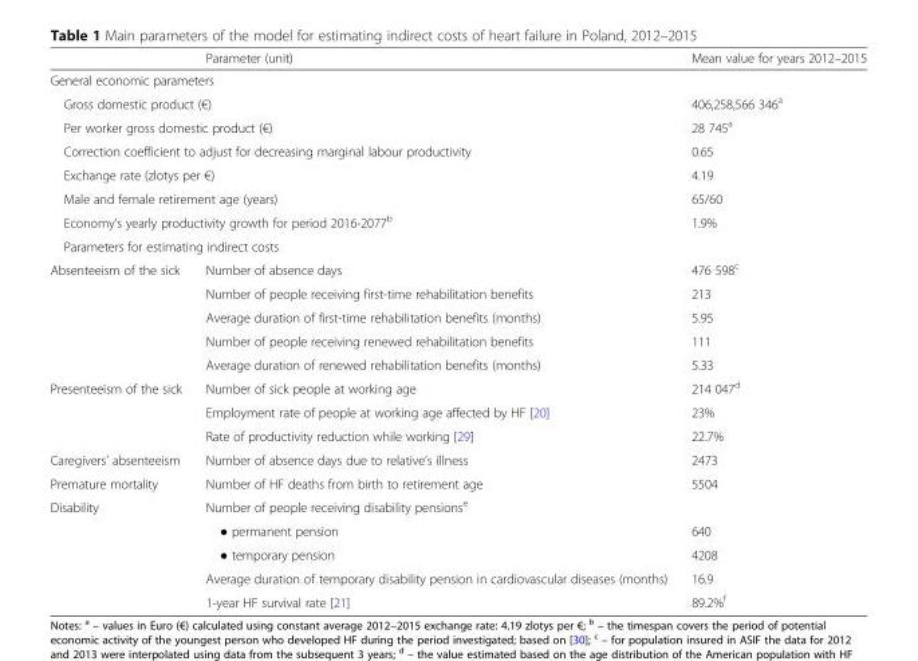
<table><thead><tr><td></td><td>Parameter (unit)</td><td>Mean value for years 2012–2015</td></tr></thead><tbody><tr><td colspan="3">General economic parameters</td></tr><tr><td colspan="2">Gross domestic product (€)</td><td>406,258,566 346<sup>a</sup></td></tr><tr><td colspan="2">Per worker gross domestic product (€)</td><td>28 745<sup>a</sup></td></tr><tr><td colspan="2">Correction coefficient to adjust for decreasing marginal labour productivity</td><td>0.65</td></tr><tr><td colspan="2">Exchange rate (zlotys per €)</td><td>4.19</td></tr><tr><td colspan="2">Male and female retirement age (years)</td><td>65/60</td></tr><tr><td colspan="2">Economy’s yearly productivity growth for period 2016-2077<sup>b</sup></td><td>1.9%</td></tr><tr><td colspan="3">Parameters for estimating indirect costs</td></tr><tr><td rowspan="5">Absenteeism of the sick</td><td>Number of absence days</td><td>476 598<sup>c</sup></td></tr><tr><td>Number of people receiving first-time rehabilitation benefits</td><td>213</td></tr><tr><td>Average duration of first-time rehabilitation benefits (months)</td><td>5.95</td></tr><tr><td>Number of people receiving renewed rehabilitation benefits</td><td>111</td></tr><tr><td>Average duration of renewed rehabilitation benefits (months)</td><td>5.33</td></tr><tr><td rowspan="3">Presenteeism of the sick</td><td>Number of sick people at working age</td><td>214 047<sup>d</sup></td></tr><tr><td>Employment rate of people at working age affected by HF [20]</td><td>23%</td></tr><tr><td>Rate of productivity reduction while working [29]</td><td>22.7%</td></tr><tr><td>Caregivers’ absenteeism</td><td>Number of absence days due to relative’s illness</td><td>2473</td></tr><tr><td>Premature mortality</td><td>Number of HF deaths from birth to retirement age</td><td>5504</td></tr><tr><td rowspan="5">Disability</td><td colspan="2">Number of people receiving disability pensions<sup>e</sup></td></tr><tr><td>● permanent pension</td><td>640</td></tr><tr><td>● temporary pension</td><td>4208</td></tr><tr><td>Average duration of temporary disability pension in cardiovascular diseases (months)</td><td>16.9</td></tr><tr><td>1-year HF survival rate [21]</td><td>89.2%<sup>f</sup></td></tr></tbody></table>